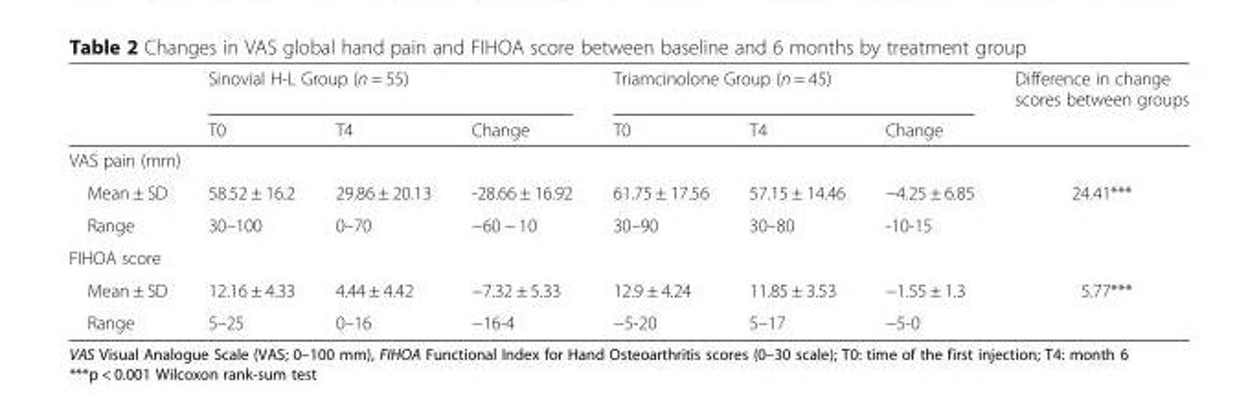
<table><thead><tr><td rowspan="2"></td><td colspan="3">Sinovial H-L Group (n = 55)</td><td colspan="3">Triamcinolone Group (n = 45)</td><td rowspan="2">Difference in change scores between groups</td></tr><tr><td>T0</td><td>T4</td><td>Change</td><td>T0</td><td>T4</td><td>Change</td></tr></thead><tbody><tr><td colspan="8">VAS pain (mm)</td></tr><tr><td>Mean ± SD</td><td>58.52 ± 16.2</td><td>29.86 ± 20.13</td><td>-28.66 ± 16.92</td><td>61.75 ± 17.56</td><td>57.15 ± 14.46</td><td>−4.25 ± 6.85</td><td>24.41***</td></tr><tr><td>Range</td><td>30–100</td><td>0–70</td><td>−60 − 10</td><td>30–90</td><td>30–80</td><td>-10-15</td><td></td></tr><tr><td colspan="8">FIHOA score</td></tr><tr><td>Mean ± SD</td><td>12.16 ± 4.33</td><td>4.44 ± 4.42</td><td>−7.32 ± 5.33</td><td>12.9 ± 4.24</td><td>11.85 ± 3.53</td><td>−1.55 ± 1.3</td><td>5.77***</td></tr><tr><td>Range</td><td>5–25</td><td>0–16</td><td>−16-4</td><td>−5-20</td><td>5–17</td><td>−5-0</td><td></td></tr></tbody></table>